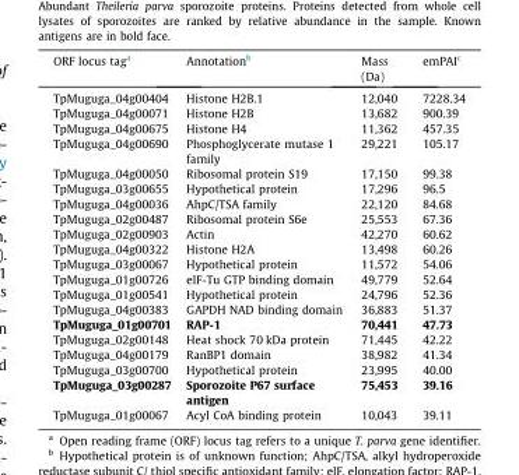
<table><thead><tr><td>ORF locus tag<sup>a</sup></td><td>Annotation<sup>b</sup></td><td>Mass (Da)</td><td>emPAI<sup>c</sup></td></tr></thead><tbody><tr><td>TpMuguga_04g00404</td><td>Histone H2B.1</td><td>12,040</td><td>7228.34</td></tr><tr><td>TpMuguga_04g00071</td><td>Histone H2B</td><td>13,682</td><td>900.39</td></tr><tr><td>TpMuguga_04g00675</td><td>Histone H4</td><td>11,362</td><td>457.35</td></tr><tr><td>TpMuguga_04g00690</td><td>Phosphoglycerate mutase 1 family</td><td>29,221</td><td>105.17</td></tr><tr><td>TpMuguga_04g00050</td><td>Ribosomal protein S19</td><td>17,150</td><td>99.38</td></tr><tr><td>TpMuguga_03g00655</td><td>Hypothetical protein</td><td>17,296</td><td>96.5</td></tr><tr><td>TpMuguga_04g00036</td><td>AhpC/TSA family</td><td>22,120</td><td>84.68</td></tr><tr><td>TpMuguga_02g00487</td><td>Ribosomal protein S6e</td><td>25,553</td><td>67.36</td></tr><tr><td>TpMuguga_02g00903</td><td>Actin</td><td>42,270</td><td>60.62</td></tr><tr><td>TpMuguga_04g00322</td><td>Histone H2A</td><td>13,498</td><td>60.26</td></tr><tr><td>TpMuguga_03g00067</td><td>Hypothetical protein</td><td>11,572</td><td>54.06</td></tr><tr><td>TpMuguga_01g00726</td><td>elF-Tu GTP binding domain</td><td>49,779</td><td>52.64</td></tr><tr><td>TpMuguga_01g00541</td><td>Hypothetical protein</td><td>24,796</td><td>52.36</td></tr><tr><td>TpMuguga_04g00383</td><td>GAPDH NAD binding domain</td><td>36,883</td><td>51.37</td></tr><tr><td>TpMuguga_01g00701</td><td>RAP-1</td><td>70,441</td><td>47.73</td></tr><tr><td>TpMuguga_02g00148</td><td>Heat shock 70 kDa protein</td><td>71,445</td><td>42.22</td></tr><tr><td>TpMuguga_04g00179</td><td>RanBP1 domain</td><td>38,982</td><td>41.34</td></tr><tr><td>TpMuguga_03g00700</td><td>Hypothetical protein</td><td>23,995</td><td>40.00</td></tr><tr><td>TpMuguga_03g00287</td><td>Sporozoite P67 surface antigen</td><td>75,453</td><td>39.16</td></tr><tr><td>TpMuguga_01g00067</td><td>Acyl CoA binding protein</td><td>10,043</td><td>39.11</td></tr></tbody></table>